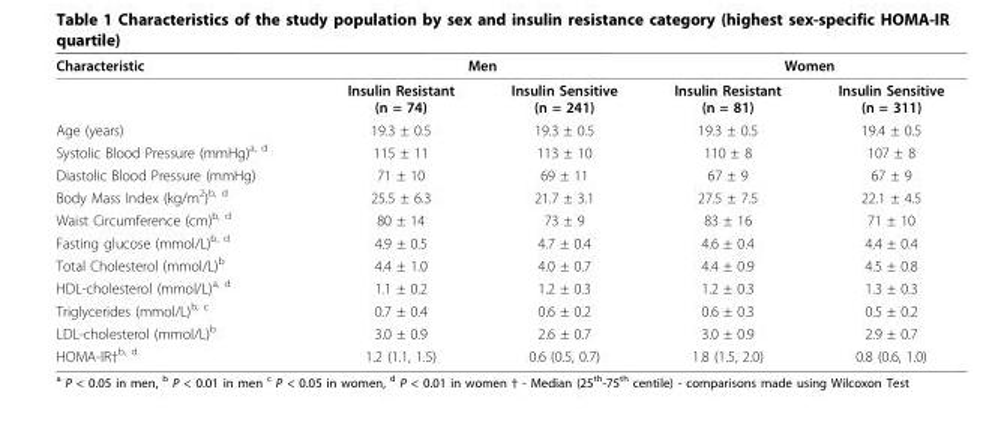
<table><thead><tr><td rowspan="2">Characteristic</td><td colspan="2">Men</td><td colspan="2">Women</td></tr><tr><td>Insulin Resistant (n = 74)</td><td>Insulin Sensitive (n = 241)</td><td>Insulin Resistant (n = 81)</td><td>Insulin Sensitive (n = 311)</td></tr></thead><tbody><tr><td>Age (years)</td><td>19.3 ± 0.5</td><td>19.3 ± 0.5</td><td>19.3 ± 0.5</td><td>19.4 ± 0.5</td></tr><tr><td>Systolic Blood Pressure (mmHg)<sup>a, d</sup></td><td>115 ± 11</td><td>113 ± 10</td><td>110 ± 8</td><td>107 ± 8</td></tr><tr><td>Diastolic Blood Pressure (mmHg)</td><td>71 ± 10</td><td>69 ± 11</td><td>67 ± 9</td><td>67 ± 9</td></tr><tr><td>Body Mass Index (kg/m<sup>2</sup>)<sup>b, d</sup></td><td>25.5 ± 6.3</td><td>21.7 ± 3.1</td><td>27.5 ± 7.5</td><td>22.1 ± 4.5</td></tr><tr><td>Waist Circumference (cm)<sup>b, d</sup></td><td>80 ± 14</td><td>73 ± 9</td><td>83 ± 16</td><td>71 ± 10</td></tr><tr><td>Fasting glucose (mmol/L)<sup>b, d</sup></td><td>4.9 ± 0.5</td><td>4.7 ± 0.4</td><td>4.6 ± 0.4</td><td>4.4 ± 0.4</td></tr><tr><td>Total Cholesterol (mmol/L)<sup>b</sup></td><td>4.4 ± 1.0</td><td>4.0 ± 0.7</td><td>4.4 ± 0.9</td><td>4.5 ± 0.8</td></tr><tr><td>HDL-cholesterol (mmol/L)<sup>a, d</sup></td><td>1.1 ± 0.2</td><td>1.2 ± 0.3</td><td>1.2 ± 0.3</td><td>1.3 ± 0.3</td></tr><tr><td>Triglycerides (mmol/L)<sup>b, c</sup></td><td>0.7 ± 0.4</td><td>0.6 ± 0.2</td><td>0.6 ± 0.3</td><td>0.5 ± 0.2</td></tr><tr><td>LDL-cholesterol (mmol/L)<sup>b</sup></td><td>3.0 ± 0.9</td><td>2.6 ± 0.7</td><td>3.0 ± 0.9</td><td>2.9 ± 0.7</td></tr><tr><td>HOMA-IR†<sup>b, d</sup></td><td>1.2 (1.1, 1.5)</td><td>0.6 (0.5, 0.7)</td><td>1.8 (1.5, 2.0)</td><td>0.8 (0.6, 1.0)</td></tr></tbody></table>